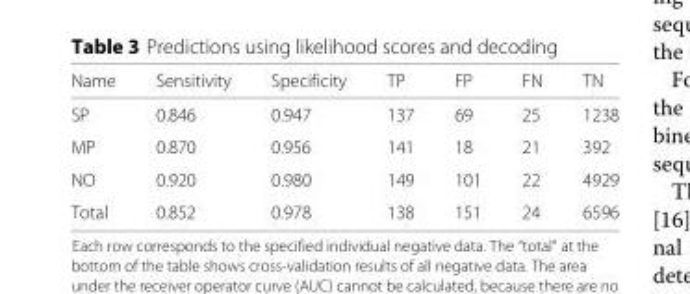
<table><thead><tr><td>Name</td><td>Sensitivity</td><td>Specificity</td><td>TP</td><td>FP</td><td>FN</td><td>TN</td></tr></thead><tbody><tr><td>SP</td><td>0.846</td><td>0.947</td><td>137</td><td>69</td><td>25</td><td>1238</td></tr><tr><td>MP</td><td>0.870</td><td>0.956</td><td>141</td><td>18</td><td>21</td><td>392</td></tr><tr><td>NO</td><td>0.920</td><td>0.980</td><td>149</td><td>101</td><td>22</td><td>4929</td></tr><tr><td>Total</td><td>0.852</td><td>0.978</td><td>138</td><td>151</td><td>24</td><td>6596</td></tr></tbody></table>